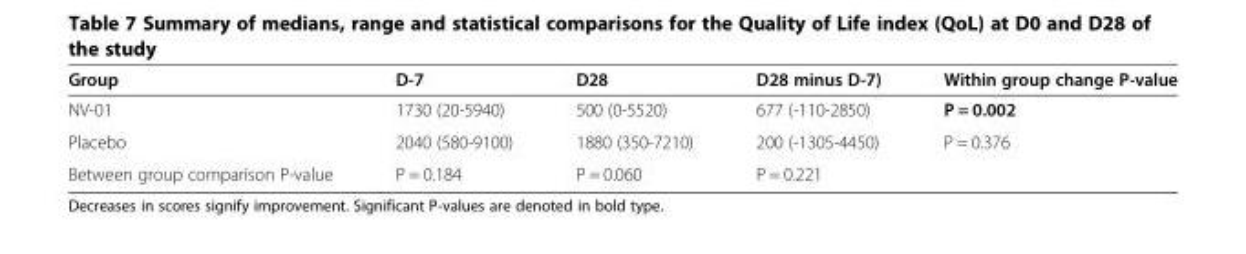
<table><thead><tr><td>Group</td><td>D-7</td><td>D28</td><td>D28 minus D-7)</td><td>Within group change P-value</td></tr></thead><tbody><tr><td>NV-01</td><td>1730 (20-5940)</td><td>500 (0-5520)</td><td>677 (-110-2850)</td><td>P = 0.002</td></tr><tr><td>Placebo</td><td>2040 (580-9100)</td><td>1880 (350-7210)</td><td>200 (-1305-4450)</td><td>P = 0.376</td></tr><tr><td>Between group comparison P-value</td><td>P = 0.184</td><td>P = 0.060</td><td>P = 0.221</td><td></td></tr></tbody></table>